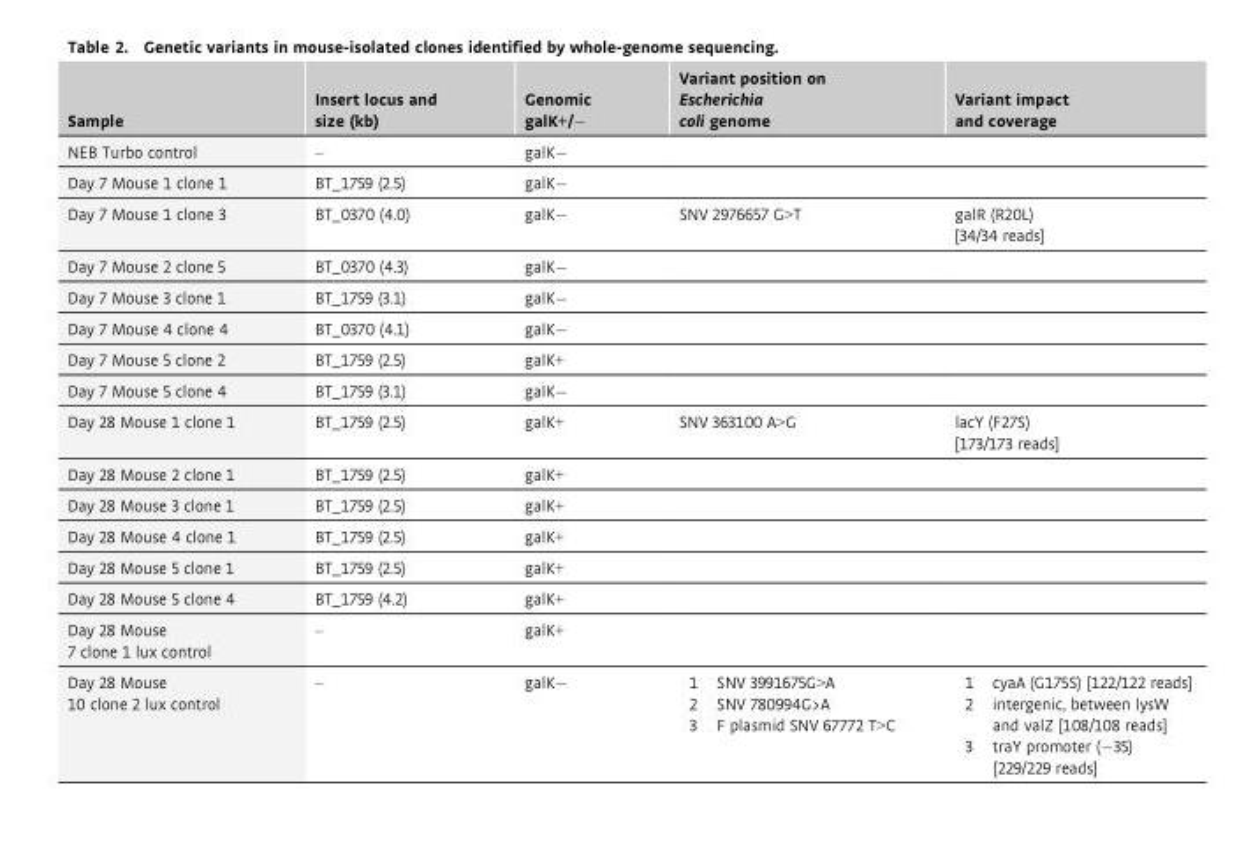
<table><thead><tr><td>Sample</td><td>Insert locus and size (kb)</td><td>Genomic galK+/−</td><td>Variant position on Escherichia coli genome</td><td>Variant impact and coverage</td></tr></thead><tbody><tr><td>NEB Turbo control</td><td>–</td><td>galK−</td><td></td><td></td></tr><tr><td>Day 7 Mouse 1 clone 1</td><td>BT_1759 (2.5)</td><td>galK−</td><td></td><td></td></tr><tr><td>Day 7 Mouse 1 clone 3</td><td>BT_0370 (4.0)</td><td>galK−</td><td>SNV 2976657 G&gt;T</td><td>galR (R20L) [34/34 reads]</td></tr><tr><td>Day 7 Mouse 2 clone 5</td><td>BT_0370 (4.3)</td><td>galK−</td><td></td><td></td></tr><tr><td>Day 7 Mouse 3 clone 1</td><td>BT_1759 (3.1)</td><td>galK−</td><td></td><td></td></tr><tr><td>Day 7 Mouse 4 clone 4</td><td>BT_0370 (4.1)</td><td>galK−</td><td></td><td></td></tr><tr><td>Day 7 Mouse 5 clone 2</td><td>BT_1759 (2.5)</td><td>galK+</td><td></td><td></td></tr><tr><td>Day 7 Mouse 5 clone 4</td><td>BT_1759 (3.1)</td><td>galK−</td><td></td><td></td></tr><tr><td>Day 28 Mouse 1 clone 1</td><td>BT_1759 (2.5)</td><td>galK+</td><td>SNV 363100 A&gt;G</td><td>lacY (F27S) [173/173 reads]</td></tr><tr><td>Day 28 Mouse 2 clone 1</td><td>BT_1759 (2.5)</td><td>galK+</td><td></td><td></td></tr><tr><td>Day 28 Mouse 3 clone 1</td><td>BT_1759 (2.5)</td><td>galK+</td><td></td><td></td></tr><tr><td>Day 28 Mouse 4 clone 1</td><td>BT_1759 (2.5)</td><td>galK+</td><td></td><td></td></tr><tr><td>Day 28 Mouse 5 clone 1</td><td>BT_1759 (2.5)</td><td>galK+</td><td></td><td></td></tr><tr><td>Day 28 Mouse 5 clone 4</td><td>BT_1759 (4.2)</td><td>galK+</td><td></td><td></td></tr><tr><td>Day 28 Mouse 7 clone 1 lux control</td><td>–</td><td>galK+</td><td></td><td></td></tr><tr><td>Day 28 Mouse 10 clone 2 lux control</td><td>–</td><td>galK−</td><td>1 SNV 3991675G&gt;A 2 SNV 780994G&gt;A 3 F plasmid SNV 67772 T&gt;C</td><td>1 cyaA (G175S) [122/122 reads] 2 intergenic, between lysW and valZ [108/108 reads] 3 traY promoter (�35) [229/229 reads]</td></tr></tbody></table>